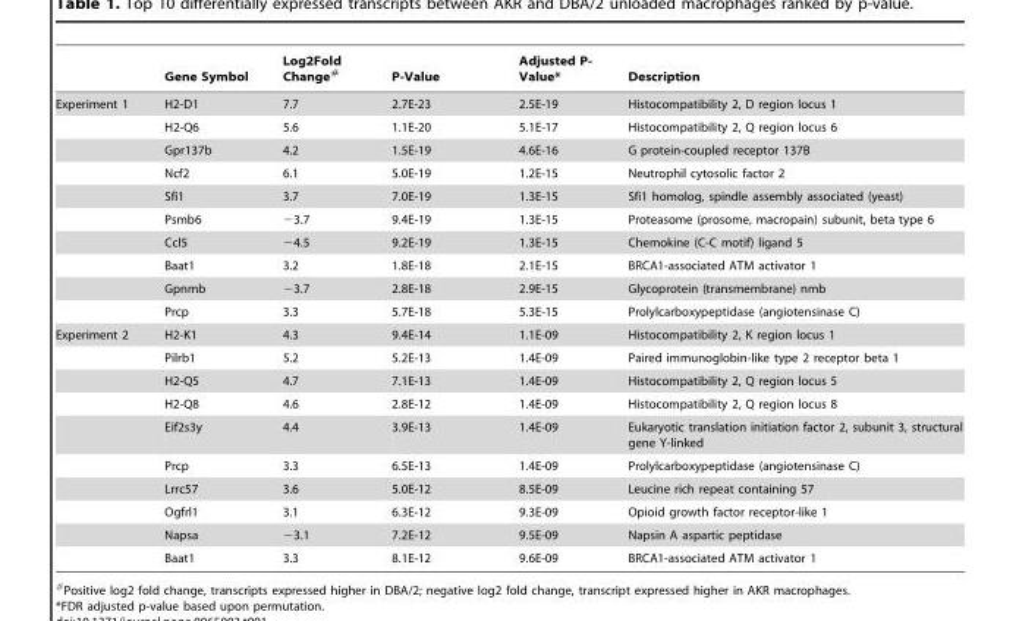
<table><thead><tr><td></td><td>Gene Symbol</td><td>Log2Fold Change#</td><td>P-Value</td><td>Adjusted P- Value*</td><td>Description</td></tr></thead><tbody><tr><td rowspan="10">Experiment 1</td><td>H2-D1</td><td>7.7</td><td>2.7E-23</td><td>2.5E-19</td><td>Histocompatibility 2, D region locus 1</td></tr><tr><td>H2-Q6</td><td>5.6</td><td>1.1E-20</td><td>5.1E-17</td><td>Histocompatibility 2, Q region locus 6</td></tr><tr><td>Gpr137b</td><td>4.2</td><td>1.5E-19</td><td>4.6E-16</td><td>G protein-coupled receptor 137B</td></tr><tr><td>Ncf2</td><td>6.1</td><td>5.0E-19</td><td>1.2E-15</td><td>Neutrophil cytosolic factor 2</td></tr><tr><td>Sfi1</td><td>3.7</td><td>7.0E-19</td><td>1.3E-15</td><td>Sfi1 homolog, spindle assembly associated (yeast)</td></tr><tr><td>Psmb6</td><td>−3.7</td><td>9.4E-19</td><td>1.3E-15</td><td>Proteasome (prosome, macropain) subunit, beta type 6</td></tr><tr><td>Ccl5</td><td>−4.5</td><td>9.2E-19</td><td>1.3E-15</td><td>Chemokine (C-C motif) ligand 5</td></tr><tr><td>Baat1</td><td>3.2</td><td>1.8E-18</td><td>2.1E-15</td><td>BRCA1-associated ATM activator 1</td></tr><tr><td>Gpnmb</td><td>−3.7</td><td>2.8E-18</td><td>2.9E-15</td><td>Glycoprotein (transmembrane) nmb</td></tr><tr><td>Prcp</td><td>3.3</td><td>5.7E-18</td><td>5.3E-15</td><td>Prolylcarboxypeptidase (angiotensinase C)</td></tr><tr><td rowspan="10">Experiment 2</td><td>H2-K1</td><td>4.3</td><td>9.4E-14</td><td>1.1E-09</td><td>Histocompatibility 2, K region locus 1</td></tr><tr><td>Pilrb1</td><td>5.2</td><td>5.2E-13</td><td>1.4E-09</td><td>Paired immunoglobin-like type 2 receptor beta 1</td></tr><tr><td>H2-Q5</td><td>4.7</td><td>7.1E-13</td><td>1.4E-09</td><td>Histocompatibility 2, Q region locus 5</td></tr><tr><td>H2-Q8</td><td>4.6</td><td>2.8E-12</td><td>1.4E-09</td><td>Histocompatibility 2, Q region locus 8</td></tr><tr><td>Eif2s3y</td><td>4.4</td><td>3.9E-13</td><td>1.4E-09</td><td>Eukaryotic translation initiation factor 2, subunit 3, structural gene Y-linked</td></tr><tr><td>Prcp</td><td>3.3</td><td>6.5E-13</td><td>1.4E-09</td><td>Prolylcarboxypeptidase (angiotensinase C)</td></tr><tr><td>Lrrc57</td><td>3.6</td><td>5.0E-12</td><td>8.5E-09</td><td>Leucine rich repeat containing 57</td></tr><tr><td>Ogfrl1</td><td>3.1</td><td>6.3E-12</td><td>9.3E-09</td><td>Opioid growth factor receptor-like 1</td></tr><tr><td>Napsa</td><td>−3.1</td><td>7.2E-12</td><td>9.5E-09</td><td>Napsin A aspartic peptidase</td></tr><tr><td>Baat1</td><td>3.3</td><td>8.1E-12</td><td>9.6E-09</td><td>BRCA1-associated ATM activator 1</td></tr></tbody></table>